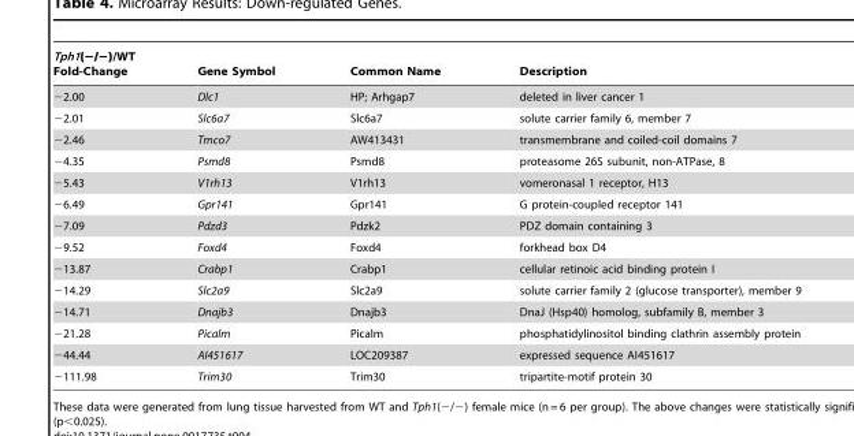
<table><thead><tr><td>Tph1(−/−)/WT Fold-Change</td><td>Gene Symbol</td><td>Common Name</td><td>Description</td></tr></thead><tbody><tr><td>−2.00</td><td>Dlc1</td><td>HP; Arhgap7</td><td>deleted in liver cancer 1</td></tr><tr><td>−2.01</td><td>Slc6a7</td><td>Slc6a7</td><td>solute carrier family 6, member 7</td></tr><tr><td>−2.46</td><td>Tmco7</td><td>AW413431</td><td>transmembrane and coiled-coil domains 7</td></tr><tr><td>−4.35</td><td>Psmd8</td><td>Psmd8</td><td>proteasome 26S subunit, non-ATPase, 8</td></tr><tr><td>−5.43</td><td>V1rh13</td><td>V1rh13</td><td>vomeronasal 1 receptor, H13</td></tr><tr><td>−6.49</td><td>Gpr141</td><td>Gpr141</td><td>G protein-coupled receptor 141</td></tr><tr><td>−7.09</td><td>Pdzd3</td><td>Pdzk2</td><td>PDZ domain containing 3</td></tr><tr><td>−9.52</td><td>Foxd4</td><td>Foxd4</td><td>forkhead box D4</td></tr><tr><td>−13.87</td><td>Crabp1</td><td>Crabp1</td><td>cellular retinoic acid binding protein I</td></tr><tr><td>−14.29</td><td>Slc2a9</td><td>Slc2a9</td><td>solute carrier family 2 (glucose transporter), member 9</td></tr><tr><td>−14.71</td><td>Dnajb3</td><td>Dnajb3</td><td>DnaJ (Hsp40) homolog, subfamily B, member 3</td></tr><tr><td>−21.28</td><td>Picalm</td><td>Picalm</td><td>phosphatidylinositol binding clathrin assembly protein</td></tr><tr><td>−44.44</td><td>AI451617</td><td>LOC209387</td><td>expressed sequence AI451617</td></tr><tr><td>−111.98</td><td>Trim30</td><td>Trim30</td><td>tripartite-motif protein 30</td></tr></tbody></table>